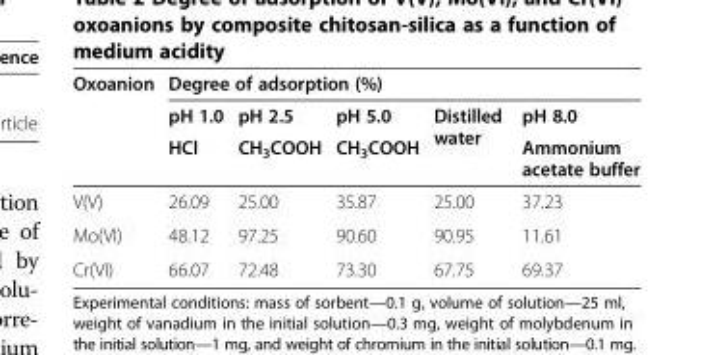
<table><thead><tr><td rowspan="3">Oxoanion</td><td colspan="5">Degree of adsorption (%)</td></tr><tr><td rowspan="2">pH 1.0 HCl</td><td rowspan="2">pH 2.5 СН<sub>3</sub>СООН</td><td rowspan="2">pH 5.0 СН<sub>3</sub>СООН</td><td rowspan="2">Distilled water</td><td rowspan="2">pH 8.0 Ammonium acetate buffer</td></tr><tr></tr></thead><tbody><tr><td>V(V)</td><td>26.09</td><td>25.00</td><td>35.87</td><td>25.00</td><td>37.23</td></tr><tr><td>Mo(VI)</td><td>48.12</td><td>97.25</td><td>90.60</td><td>90.95</td><td>11.61</td></tr><tr><td>Cr(VI)</td><td>66.07</td><td>72.48</td><td>73.30</td><td>67.75</td><td>69.37</td></tr></tbody></table>